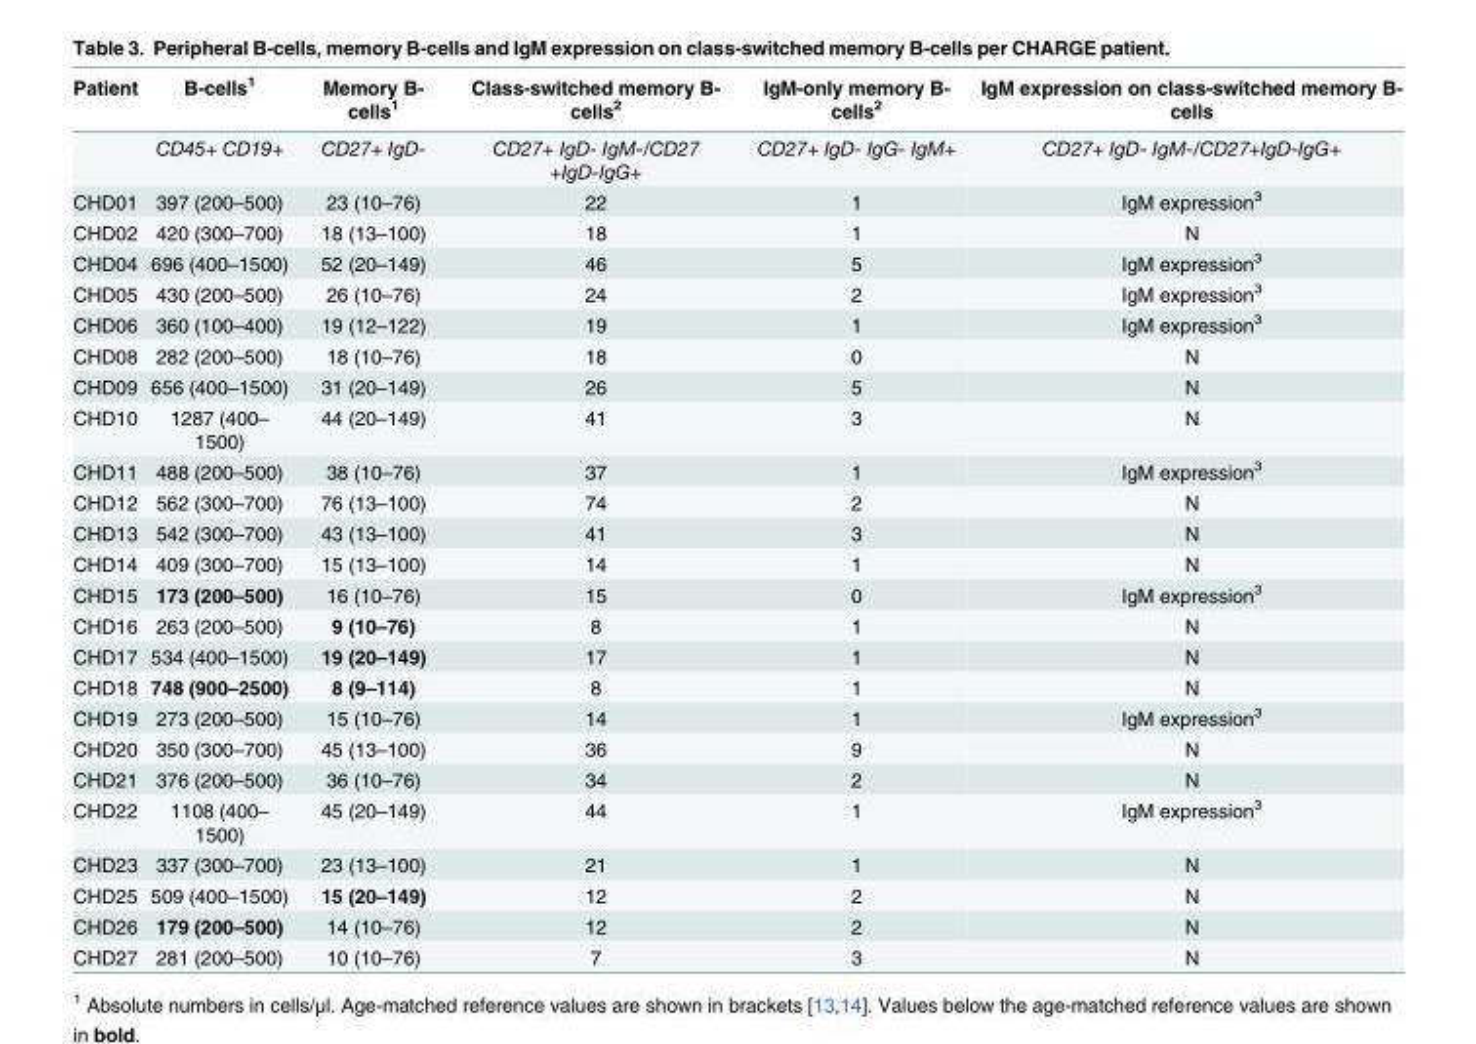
<table><thead><tr><td>Patient</td><td>B-cells<sup>1</sup></td><td>Memory B- cells<sup>1</sup></td><td>Class-switched memory B- cells<sup>2</sup></td><td>IgM-only memory B- cells<sup>2</sup></td><td>IgM expression on class-switched memory B- cells</td></tr></thead><tbody><tr><td></td><td>CD45+ CD19+</td><td>CD27+ IgD-</td><td>CD27+ IgD- IgM-/CD27 +IgD-IgG+</td><td>CD27+ IgD- IgG- IgM+</td><td>CD27+ IgD- IgM-/CD27+IgD-IgG+</td></tr><tr><td>CHD01</td><td>397 (200–500)</td><td>23 (10–76)</td><td>22</td><td>1</td><td>IgM expression<sup>3</sup></td></tr><tr><td>CHD02</td><td>420 (300–700)</td><td>18 (13–100)</td><td>18</td><td>1</td><td>N</td></tr><tr><td>CHD04</td><td>696 (400–1500)</td><td>52 (20–149)</td><td>46</td><td>5</td><td>IgM expression<sup>3</sup></td></tr><tr><td>CHD05</td><td>430 (200–500)</td><td>26 (10–76)</td><td>24</td><td>2</td><td>IgM expression<sup>3</sup></td></tr><tr><td>CHD06</td><td>360 (100–400)</td><td>19 (12–122)</td><td>19</td><td>1</td><td>IgM expression<sup>3</sup></td></tr><tr><td>CHD08</td><td>282 (200–500)</td><td>18 (10–76)</td><td>18</td><td>0</td><td>N</td></tr><tr><td>CHD09</td><td>656 (400–1500)</td><td>31 (20–149)</td><td>26</td><td>5</td><td>N</td></tr><tr><td>CHD10</td><td>1287 (400– 1500)</td><td>44 (20–149)</td><td>41</td><td>3</td><td>N</td></tr><tr><td>CHD11</td><td>488 (200–500)</td><td>38 (10–76)</td><td>37</td><td>1</td><td>IgM expression<sup>3</sup></td></tr><tr><td>CHD12</td><td>562 (300–700)</td><td>76 (13–100)</td><td>74</td><td>2</td><td>N</td></tr><tr><td>CHD13</td><td>542 (300–700)</td><td>43 (13–100)</td><td>41</td><td>3</td><td>N</td></tr><tr><td>CHD14</td><td>409 (300–700)</td><td>15 (13–100)</td><td>14</td><td>1</td><td>N</td></tr><tr><td>CHD15</td><td>173 (200–500)</td><td>16 (10–76)</td><td>15</td><td>0</td><td>IgM expression<sup>3</sup></td></tr><tr><td>CHD16</td><td>263 (200–500)</td><td>9 (10–76)</td><td>8</td><td>1</td><td>N</td></tr><tr><td>CHD17</td><td>534 (400–1500)</td><td>19 (20–149)</td><td>17</td><td>1</td><td>N</td></tr><tr><td>CHD18</td><td>748 (900–2500)</td><td>8 (9–114)</td><td>8</td><td>1</td><td>N</td></tr><tr><td>CHD19</td><td>273 (200–500)</td><td>15 (10–76)</td><td>14</td><td>1</td><td>IgM expression<sup>3</sup></td></tr><tr><td>CHD20</td><td>350 (300–700)</td><td>45 (13–100)</td><td>36</td><td>9</td><td>N</td></tr><tr><td>CHD21</td><td>376 (200–500)</td><td>36 (10–76)</td><td>34</td><td>2</td><td>N</td></tr><tr><td>CHD22</td><td>1108 (400– 1500)</td><td>45 (20–149)</td><td>44</td><td>1</td><td>IgM expression<sup>3</sup></td></tr><tr><td>CHD23</td><td>337 (300–700)</td><td>23 (13–100)</td><td>21</td><td>1</td><td>N</td></tr><tr><td>CHD25</td><td>509 (400–1500)</td><td>15 (20–149)</td><td>12</td><td>2</td><td>N</td></tr><tr><td>CHD26</td><td>179 (200–500)</td><td>14 (10–76)</td><td>12</td><td>2</td><td>N</td></tr><tr><td>CHD27</td><td>281 (200–500)</td><td>10 (10–76)</td><td>7</td><td>3</td><td>N</td></tr></tbody></table>